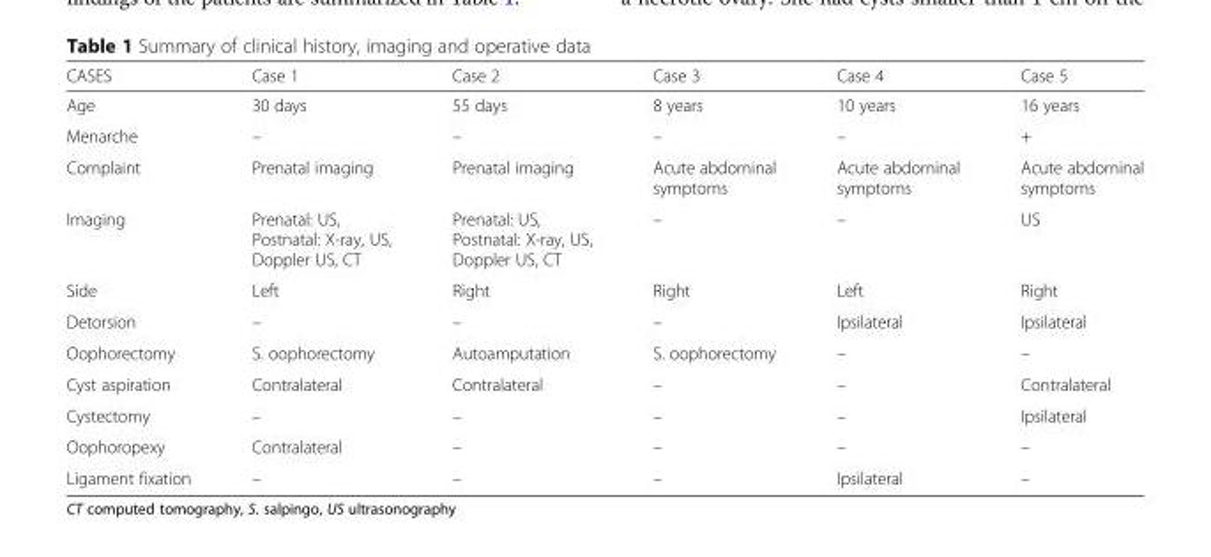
<table><thead><tr><td>CASES</td><td>Case 1</td><td>Case 2</td><td>Case 3</td><td>Case 4</td><td>Case 5</td></tr></thead><tbody><tr><td>Age</td><td>30 days</td><td>55 days</td><td>8 years</td><td>10 years</td><td>16 years</td></tr><tr><td>Menarche</td><td>–</td><td>–</td><td>–</td><td>–</td><td>+</td></tr><tr><td>Complaint</td><td>Prenatal imaging</td><td>Prenatal imaging</td><td>Acute abdominal symptoms</td><td>Acute abdominal symptoms</td><td>Acute abdominal symptoms</td></tr><tr><td>Imaging</td><td>Prenatal: US, Postnatal: X-ray, US, Doppler US, CT</td><td>Prenatal: US, Postnatal: X-ray, US, Doppler US, CT</td><td>–</td><td>–</td><td>US</td></tr><tr><td>Side</td><td>Left</td><td>Right</td><td>Right</td><td>Left</td><td>Right</td></tr><tr><td>Detorsion</td><td>–</td><td>–</td><td>–</td><td>Ipsilateral</td><td>Ipsilateral</td></tr><tr><td>Oophorectomy</td><td>S. oophorectomy</td><td>Autoamputation</td><td>S. oophorectomy</td><td>–</td><td>–</td></tr><tr><td>Cyst aspiration</td><td>Contralateral</td><td>Contralateral</td><td>–</td><td>–</td><td>Contralateral</td></tr><tr><td>Cystectomy</td><td>–</td><td>–</td><td>–</td><td>–</td><td>Ipsilateral</td></tr><tr><td>Oophoropexy</td><td>Contralateral</td><td>–</td><td>–</td><td>–</td><td>–</td></tr><tr><td>Ligament fixation</td><td>–</td><td>–</td><td>–</td><td>Ipsilateral</td><td>–</td></tr></tbody></table>